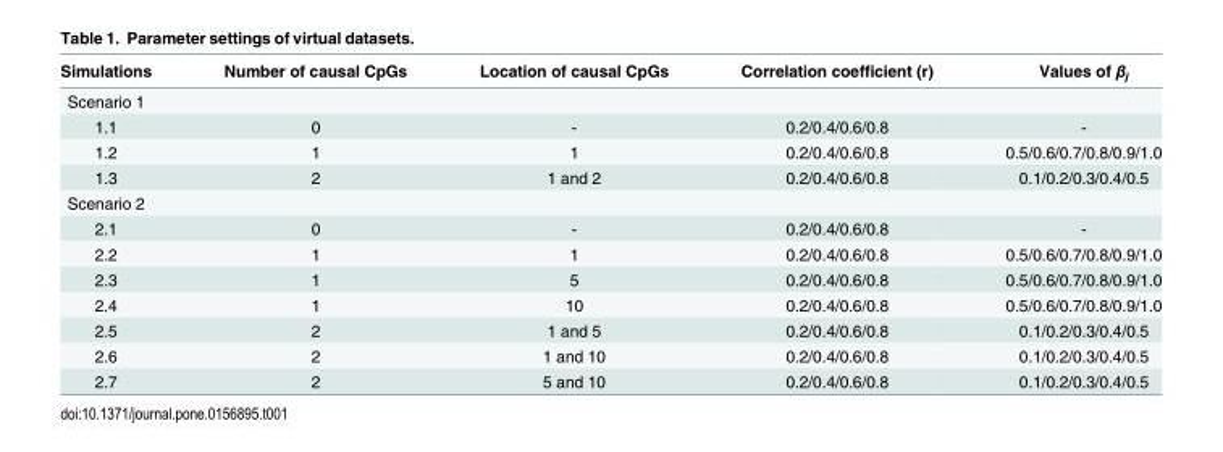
<table><thead><tr><td>Simulations</td><td>Number of causal CpGs</td><td>Location of causal CpGs</td><td>Correlation coefficient (r)</td><td>Values of β<sub>j</sub></td></tr></thead><tbody><tr><td colspan="5">Scenario 1</td></tr><tr><td>1.1</td><td>0</td><td>-</td><td>0.2/0.4/0.6/0.8</td><td>-</td></tr><tr><td>1.2</td><td>1</td><td>1</td><td>0.2/0.4/0.6/0.8</td><td>0.5/0.6/0.7/0.8/0.9/1.0</td></tr><tr><td>1.3</td><td>2</td><td>1 and 2</td><td>0.2/0.4/0.6/0.8</td><td>0.1/0.2/0.3/0.4/0.5</td></tr><tr><td colspan="5">Scenario 2</td></tr><tr><td>2.1</td><td>0</td><td>-</td><td>0.2/0.4/0.6/0.8</td><td>-</td></tr><tr><td>2.2</td><td>1</td><td>1</td><td>0.2/0.4/0.6/0.8</td><td>0.5/0.6/0.7/0.8/0.9/1.0</td></tr><tr><td>2.3</td><td>1</td><td>5</td><td>0.2/0.4/0.6/0.8</td><td>0.5/0.6/0.7/0.8/0.9/1.0</td></tr><tr><td>2.4</td><td>1</td><td>10</td><td>0.2/0.4/0.6/0.8</td><td>0.5/0.6/0.7/0.8/0.9/1.0</td></tr><tr><td>2.5</td><td>2</td><td>1 and 5</td><td>0.2/0.4/0.6/0.8</td><td>0.1/0.2/0.3/0.4/0.5</td></tr><tr><td>2.6</td><td>2</td><td>1 and 10</td><td>0.2/0.4/0.6/0.8</td><td>0.1/0.2/0.3/0.4/0.5</td></tr><tr><td>2.7</td><td>2</td><td>5 and 10</td><td>0.2/0.4/0.6/0.8</td><td>0.1/0.2/0.3/0.4/0.5</td></tr></tbody></table>